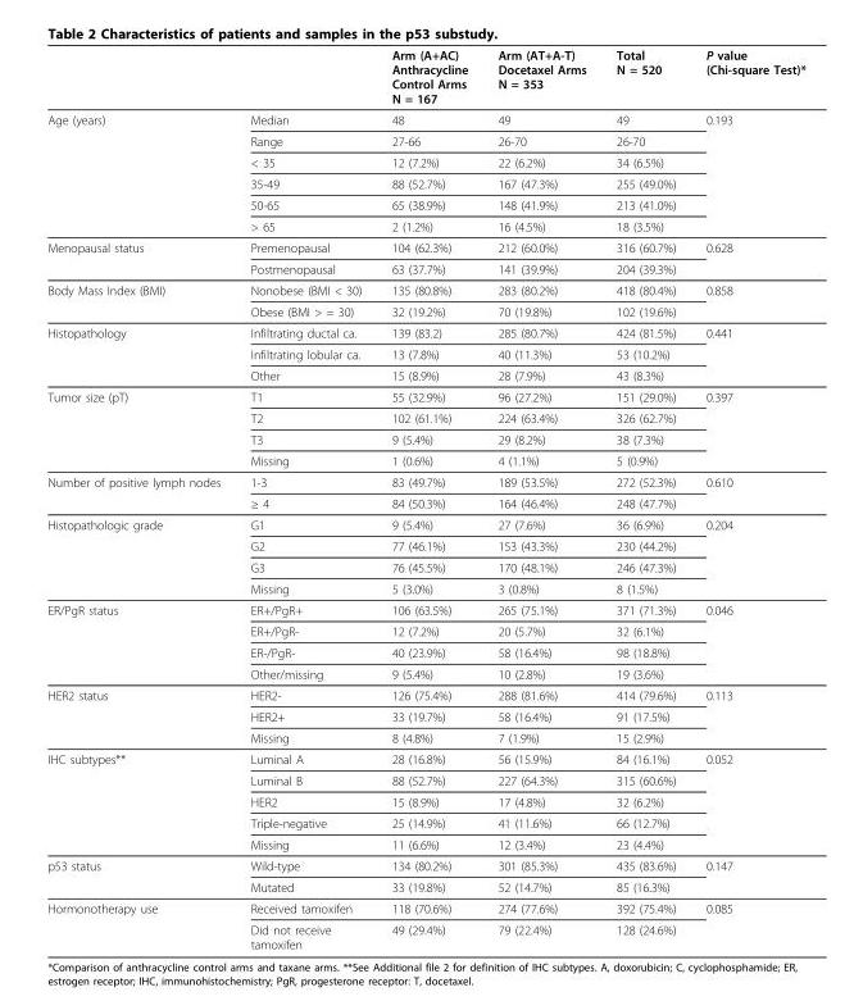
<table><thead><tr><td></td><td></td><td>Arm (A+AC) Anthracycline Control Arms N = 167</td><td>Arm (AT+A-T) Docetaxel Arms N = 353</td><td>Total N = 520</td><td>P value (Chi-square Test)*</td></tr></thead><tbody><tr><td rowspan="6">Age (years)</td><td>Median</td><td>48</td><td>49</td><td>49</td><td>0.193</td></tr><tr><td>Range</td><td>27-66</td><td>26-70</td><td>26-70</td><td></td></tr><tr><td>&lt; 35</td><td>12 (7.2%)</td><td>22 (6.2%)</td><td>34 (6.5%)</td><td></td></tr><tr><td>35-49</td><td>88 (52.7%)</td><td>167 (47.3%)</td><td>255 (49.0%)</td><td></td></tr><tr><td>50-65</td><td>65 (38.9%)</td><td>148 (41.9%)</td><td>213 (41.0%)</td><td></td></tr><tr><td>&gt; 65</td><td>2 (1.2%)</td><td>16 (4.5%)</td><td>18 (3.5%)</td><td></td></tr><tr><td rowspan="2">Menopausal status</td><td>Premenopausal</td><td>104 (62.3%)</td><td>212 (60.0%)</td><td>316 (60.7%)</td><td>0.628</td></tr><tr><td>Postmenopausal</td><td>63 (37.7%)</td><td>141 (39.9%)</td><td>204 (39.3%)</td><td></td></tr><tr><td rowspan="2">Body Mass Index (BMI)</td><td>Nonobese (BMI &lt; 30)</td><td>135 (80.8%)</td><td>283 (80.2%)</td><td>418 (80.4%)</td><td>0.858</td></tr><tr><td>Obese (BMI &gt; = 30)</td><td>32 (19.2%)</td><td>70 (19.8%)</td><td>102 (19.6%)</td><td></td></tr><tr><td rowspan="3">Histopathology</td><td>Infiltrating ductal ca.</td><td>139 (83.2)</td><td>285 (80.7%)</td><td>424 (81.5%)</td><td>0.441</td></tr><tr><td>Infiltrating lobular ca.</td><td>13 (7.8%)</td><td>40 (11.3%)</td><td>53 (10.2%)</td><td></td></tr><tr><td>Other</td><td>15 (8.9%)</td><td>28 (7.9%)</td><td>43 (8.3%)</td><td></td></tr><tr><td rowspan="4">Tumor size (pT)</td><td>T1</td><td>55 (32.9%)</td><td>96 (27.2%)</td><td>151 (29.0%)</td><td>0.397</td></tr><tr><td>T2</td><td>102 (61.1%)</td><td>224 (63.4%)</td><td>326 (62.7%)</td><td></td></tr><tr><td>T3</td><td>9 (5.4%)</td><td>29 (8.2%)</td><td>38 (7.3%)</td><td></td></tr><tr><td>Missing</td><td>1 (0.6%)</td><td>4 (1.1%)</td><td>5 (0.9%)</td><td></td></tr><tr><td rowspan="2">Number of positive lymph nodes</td><td>1-3</td><td>83 (49.7%)</td><td>189 (53.5%)</td><td>272 (52.3%)</td><td>0.610</td></tr><tr><td>≥ 4</td><td>84 (50.3%)</td><td>164 (46.4%)</td><td>248 (47.7%)</td><td></td></tr><tr><td rowspan="4">Histopathologic grade</td><td>G1</td><td>9 (5.4%)</td><td>27 (7.6%)</td><td>36 (6.9%)</td><td>0.204</td></tr><tr><td>G2</td><td>77 (46.1%)</td><td>153 (43.3%)</td><td>230 (44.2%)</td><td></td></tr><tr><td>G3</td><td>76 (45.5%)</td><td>170 (48.1%)</td><td>246 (47.3%)</td><td></td></tr><tr><td>Missing</td><td>5 (3.0%)</td><td>3 (0.8%)</td><td>8 (1.5%)</td><td></td></tr><tr><td rowspan="4">ER/PgR status</td><td>ER+/PgR+</td><td>106 (63.5%)</td><td>265 (75.1%)</td><td>371 (71.3%)</td><td>0.046</td></tr><tr><td>ER+/PgR-</td><td>12 (7.2%)</td><td>20 (5.7%)</td><td>32 (6.1%)</td><td></td></tr><tr><td>ER-/PgR-</td><td>40 (23.9%)</td><td>58 (16.4%)</td><td>98 (18.8%)</td><td></td></tr><tr><td>Other/missing</td><td>9 (5.4%)</td><td>10 (2.8%)</td><td>19 (3.6%)</td><td></td></tr><tr><td rowspan="3">HER2 status</td><td>HER2-</td><td>126 (75.4%)</td><td>288 (81.6%)</td><td>414 (79.6%)</td><td>0.113</td></tr><tr><td>HER2+</td><td>33 (19.7%)</td><td>58 (16.4%)</td><td>91 (17.5%)</td><td></td></tr><tr><td>Missing</td><td>8 (4.8%)</td><td>7 (1.9%)</td><td>15 (2.9%)</td><td></td></tr><tr><td rowspan="5">IHC subtypes**</td><td>Luminal A</td><td>28 (16.8%)</td><td>56 (15.9%)</td><td>84 (16.1%)</td><td>0.052</td></tr><tr><td>Luminal B</td><td>88 (52.7%)</td><td>227 (64.3%)</td><td>315 (60.6%)</td><td></td></tr><tr><td>HER2</td><td>15 (8.9%)</td><td>17 (4.8%)</td><td>32 (6.2%)</td><td></td></tr><tr><td>Triple-negative</td><td>25 (14.9%)</td><td>41 (11.6%)</td><td>66 (12.7%)</td><td></td></tr><tr><td>Missing</td><td>11 (6.6%)</td><td>12 (3.4%)</td><td>23 (4.4%)</td><td></td></tr><tr><td rowspan="2">p53 status</td><td>Wild-type</td><td>134 (80.2%)</td><td>301 (85.3%)</td><td>435 (83.6%)</td><td>0.147</td></tr><tr><td>Mutated</td><td>33 (19.8%)</td><td>52 (14.7%)</td><td>85 (16.3%)</td><td></td></tr><tr><td rowspan="2">Hormonotherapy use</td><td>Received tamoxifen</td><td>118 (70.6%)</td><td>274 (77.6%)</td><td>392 (75.4%)</td><td>0.085</td></tr><tr><td>Did not receive tamoxifen</td><td>49 (29.4%)</td><td>79 (22.4%)</td><td>128 (24.6%)</td><td></td></tr></tbody></table>